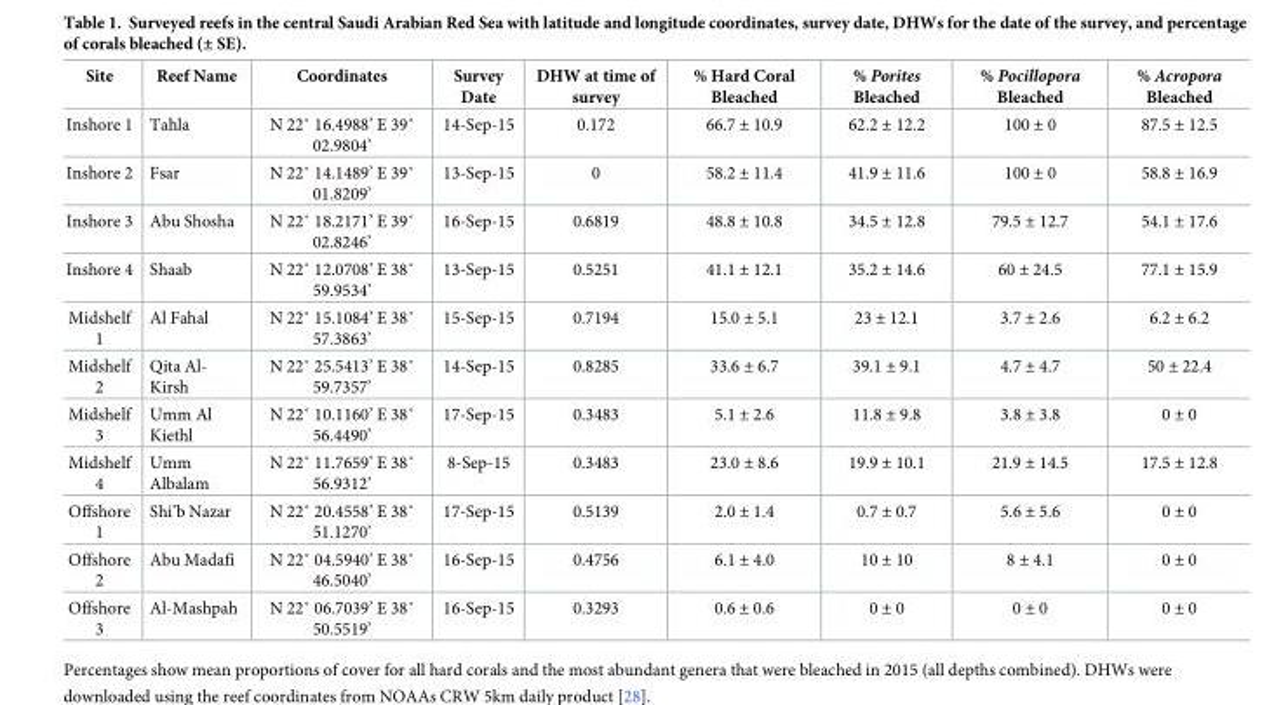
<table><thead><tr><td>Site</td><td>Reef Name</td><td>Coordinates</td><td>Survey Date</td><td>DHW at time of survey</td><td>% Hard Coral Bleached</td><td>% Porites Bleached</td><td>% Pocillopora Bleached</td><td>% Acropora Bleached</td></tr></thead><tbody><tr><td>Inshore 1</td><td>Tahla</td><td>N 22˚ 16.4988’ E 39˚ 02.9804’</td><td>14-Sep-15</td><td>0.172</td><td>66.7 ± 10.9</td><td>62.2 ± 12.2</td><td>100 ± 0</td><td>87.5 ± 12.5</td></tr><tr><td>Inshore 2</td><td>Fsar</td><td>N 22˚ 14.1489’ E 39˚ 01.8209’</td><td>13-Sep-15</td><td>0</td><td>58.2 ± 11.4</td><td>41.9 ± 11.6</td><td>100 ± 0</td><td>58.8 ± 16.9</td></tr><tr><td>Inshore 3</td><td>Abu Shosha</td><td>N 22˚ 18.2171’ E 39˚ 02.8246’</td><td>16-Sep-15</td><td>0.6819</td><td>48.8 ± 10.8</td><td>34.5 ± 12.8</td><td>79.5 ± 12.7</td><td>54.1 ± 17.6</td></tr><tr><td>Inshore 4</td><td>Shaab</td><td>N 22˚ 12.0708’ E 38˚ 59.9534’</td><td>13-Sep-15</td><td>0.5251</td><td>41.1 ± 12.1</td><td>35.2 ± 14.6</td><td>60 ± 24.5</td><td>77.1 ± 15.9</td></tr><tr><td>Midshelf 1</td><td>Al Fahal</td><td>N 22˚ 15.1084’ E 38˚ 57.3863’</td><td>15-Sep-15</td><td>0.7194</td><td>15.0 ± 5.1</td><td>23 ± 12.1</td><td>3.7 ± 2.6</td><td>6.2 ± 6.2</td></tr><tr><td>Midshelf 2</td><td>Qita Al- Kirsh</td><td>N 22˚ 25.5413’ E 38˚ 59.7357’</td><td>14-Sep-15</td><td>0.8285</td><td>33.6 ± 6.7</td><td>39.1 ± 9.1</td><td>4.7 ± 4.7</td><td>50 ± 22.4</td></tr><tr><td>Midshelf 3</td><td>Umm Al Kiethl</td><td>N 22˚ 10.1160’ E 38˚ 56.4490’</td><td>17-Sep-15</td><td>0.3483</td><td>5.1 ± 2.6</td><td>11.8 ± 9.8</td><td>3.8 ± 3.8</td><td>0 ± 0</td></tr><tr><td>Midshelf 4</td><td>Umm Albalam</td><td>N 22˚ 11.7659’ E 38˚ 56.9312’</td><td>8-Sep-15</td><td>0.3483</td><td>23.0 ± 8.6</td><td>19.9 ± 10.1</td><td>21.9 ± 14.5</td><td>17.5 ± 12.8</td></tr><tr><td>Offshore 1</td><td>Shi’b Nazar</td><td>N 22˚ 20.4558’ E 38˚ 51.1270’</td><td>17-Sep-15</td><td>0.5139</td><td>2.0 ± 1.4</td><td>0.7 ± 0.7</td><td>5.6 ± 5.6</td><td>0 ± 0</td></tr><tr><td>Offshore 2</td><td>Abu Madafi</td><td>N 22˚ 04.5940’ E 38˚ 46.5040’</td><td>16-Sep-15</td><td>0.4756</td><td>6.1 ± 4.0</td><td>10 ± 10</td><td>8 ± 4.1</td><td>0 ± 0</td></tr><tr><td>Offshore 3</td><td>Al-Mashpah</td><td>N 22˚ 06.7039’ E 38˚ 50.5519’</td><td>16-Sep-15</td><td>0.3293</td><td>0.6 ± 0.6</td><td>0 ± 0</td><td>0 ± 0</td><td>0 ± 0</td></tr></tbody></table>